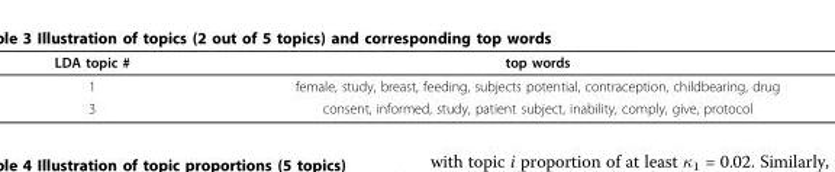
<table><thead><tr><td>LDA topic #</td><td>top words</td></tr></thead><tbody><tr><td>1</td><td>female, study, breast, feeding, subjects potential, contraception, childbearing, drug</td></tr><tr><td>3</td><td>consent, informed, study, patient subject, inability, comply, give, protocol</td></tr></tbody></table>